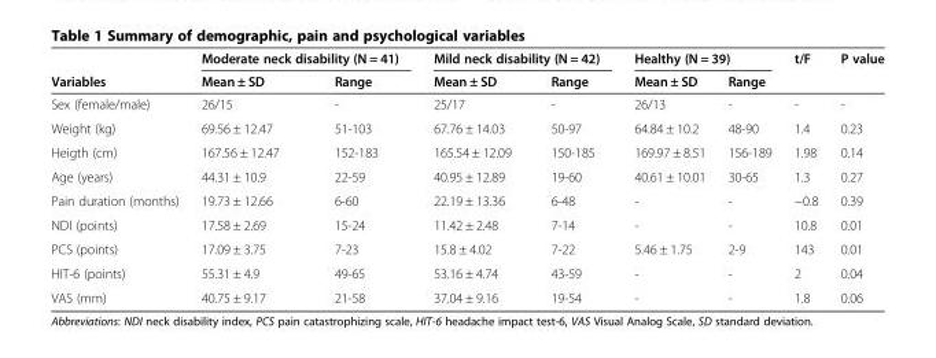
<table><thead><tr><td rowspan="2">Variables</td><td colspan="2">Moderate neck disability (N = 41)</td><td colspan="2">Mild neck disability (N = 42)</td><td colspan="2">Healthy (N = 39)</td><td rowspan="2">t/F</td><td rowspan="2">P value</td></tr><tr><td>Mean ± SD</td><td>Range</td><td>Mean ± SD</td><td>Range</td><td>Mean ± SD</td><td>Range</td></tr></thead><tbody><tr><td>Sex (female/male)</td><td>26/15</td><td>-</td><td>25/17</td><td>-</td><td>26/13</td><td>-</td><td>-</td><td>-</td></tr><tr><td>Weight (kg)</td><td>69.56 ± 12.47</td><td>51-103</td><td>67.76 ± 14.03</td><td>50-97</td><td>64.84 ± 10.2</td><td>48-90</td><td>1.4</td><td>0.23</td></tr><tr><td>Heigth (cm)</td><td>167.56 ± 12.47</td><td>152-183</td><td>165.54 ± 12.09</td><td>150-185</td><td>169.97 ± 8.51</td><td>156-189</td><td>1.98</td><td>0.14</td></tr><tr><td>Age (years)</td><td>44.31 ± 10.9</td><td>22-59</td><td>40.95 ± 12.89</td><td>19-60</td><td>40.61 ± 10.01</td><td>30-65</td><td>1.3</td><td>0.27</td></tr><tr><td>Pain duration (months)</td><td>19.73 ± 12.66</td><td>6-60</td><td>22.19 ± 13.36</td><td>6-48</td><td>-</td><td>-</td><td>−0.8</td><td>0.39</td></tr><tr><td>NDI (points)</td><td>17.58 ± 2.69</td><td>15-24</td><td>11.42 ± 2.48</td><td>7-14</td><td>-</td><td>-</td><td>10.8</td><td>0.01</td></tr><tr><td>PCS (points)</td><td>17.09 ± 3.75</td><td>7-23</td><td>15.8 ± 4.02</td><td>7-22</td><td>5.46 ± 1.75</td><td>2-9</td><td>143</td><td>0.01</td></tr><tr><td>HIT-6 (points)</td><td>55.31 ± 4.9</td><td>49-65</td><td>53.16 ± 4.74</td><td>43-59</td><td>-</td><td>-</td><td>2</td><td>0.04</td></tr><tr><td>VAS (mm)</td><td>40.75 ± 9.17</td><td>21-58</td><td>37.04 ± 9.16</td><td>19-54</td><td>-</td><td>-</td><td>1.8</td><td>0.06</td></tr></tbody></table>